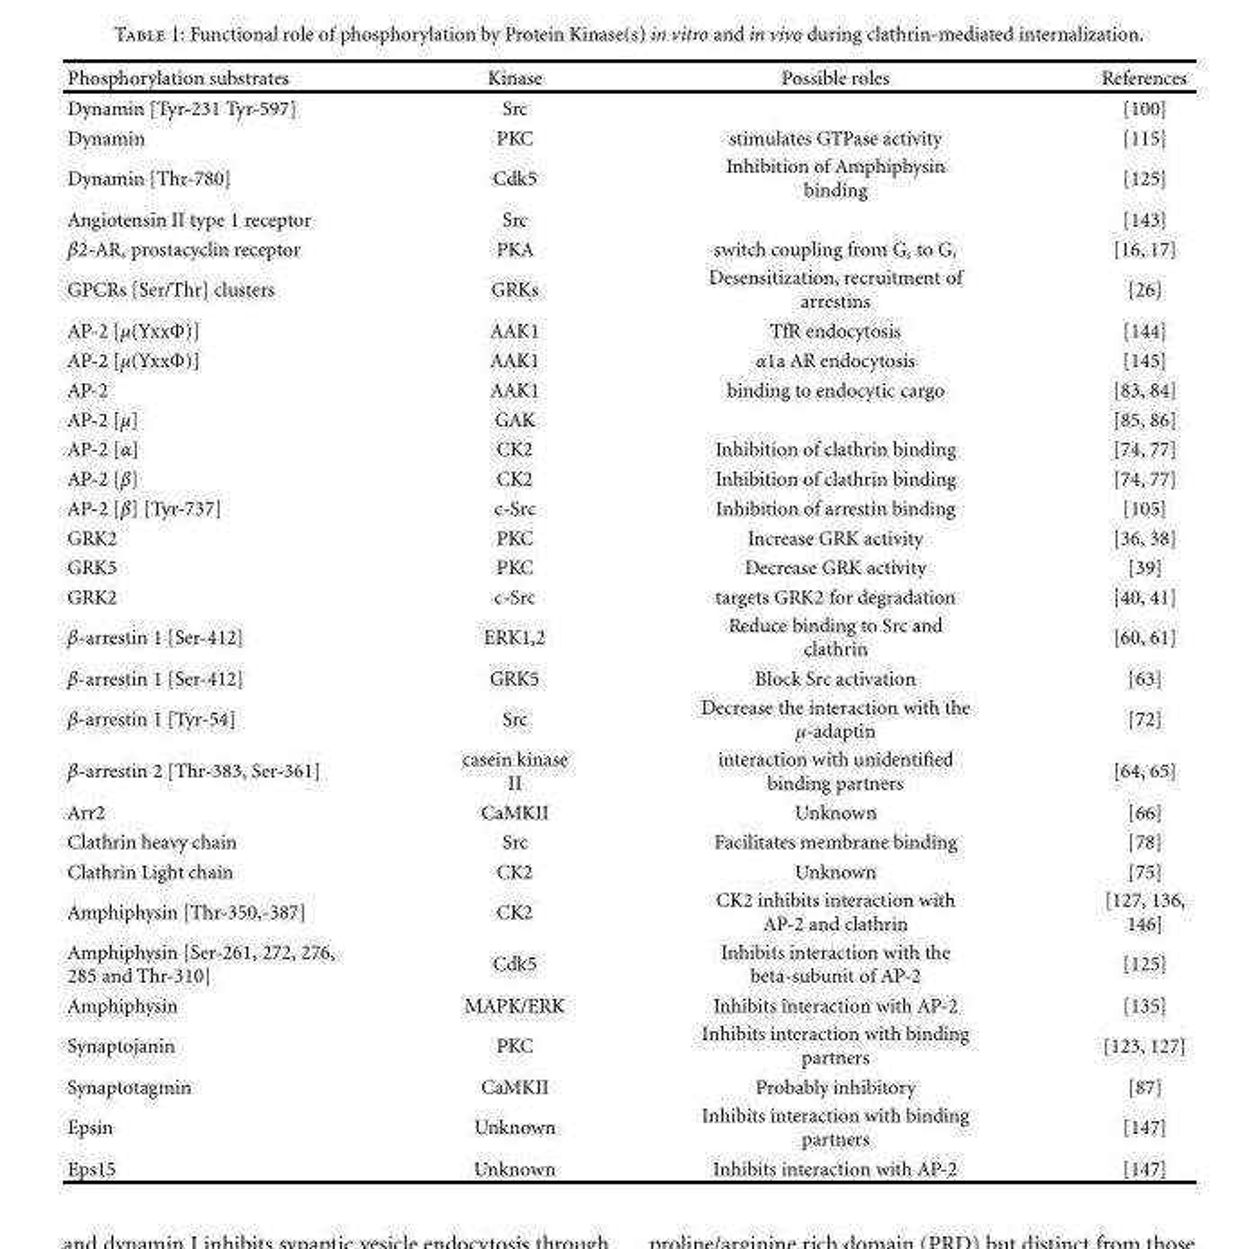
<table><thead><tr><td>Phosphorylation substrates</td><td>Kinase</td><td>Possible roles</td><td>References</td></tr></thead><tbody><tr><td>Dynamin [Tyr-231 Tyr-597]</td><td>Src</td><td></td><td>[100]</td></tr><tr><td>Dynamin</td><td>PKC</td><td>stimulates GTPase activity</td><td>[115]</td></tr><tr><td>Dynamin [Thr-780]</td><td>Cdk5</td><td>Inhibition of Amphiphysin binding</td><td>[125]</td></tr><tr><td>Angiotensin II type 1 receptor</td><td>Src</td><td></td><td>[143]</td></tr><tr><td>β2-AR, prostacyclin receptor</td><td>PKA</td><td>switch coupling from G<sub>s</sub> to G<sub>i</sub></td><td>[16, 17]</td></tr><tr><td>GPCRs [Ser/Thr] clusters</td><td>GRKs</td><td>Desensitization, recruitment of arrestins</td><td>[26]</td></tr><tr><td>AP-2 [μ(YxxΦ)]</td><td>AAK1</td><td>TfR endocytosis</td><td>[144]</td></tr><tr><td>AP-2 [μ(YxxΦ)]</td><td>AAK1</td><td>α1a AR endocytosis</td><td>[145]</td></tr><tr><td>AP-2</td><td>AAK1</td><td>binding to endocytic cargo</td><td>[83, 84]</td></tr><tr><td>AP-2 [μ]</td><td>GAK</td><td></td><td>[85, 86]</td></tr><tr><td>AP-2 [α]</td><td>CK2</td><td>Inhibition of clathrin binding</td><td>[74, 77]</td></tr><tr><td>AP-2 [β]</td><td>CK2</td><td>Inhibition of clathrin binding</td><td>[74, 77]</td></tr><tr><td>AP-2 [β] [Tyr-737]</td><td>c-Src</td><td>Inhibition of arrestin binding</td><td>[105]</td></tr><tr><td>GRK2</td><td>PKC</td><td>Increase GRK activity</td><td>[36, 38]</td></tr><tr><td>GRK5</td><td>PKC</td><td>Decrease GRK activity</td><td>[39]</td></tr><tr><td>GRK2</td><td>c-Src</td><td>targets GRK2 for degradation</td><td>[40, 41]</td></tr><tr><td>β-arrestin 1 [Ser-412]</td><td>ERK1,2</td><td>Reduce binding to Src and clathrin</td><td>[60, 61]</td></tr><tr><td>β-arrestin 1 [Ser-412]</td><td>GRK5</td><td>Block Src activation</td><td>[63]</td></tr><tr><td>β-arrestin 1 [Tyr-54]</td><td>Src</td><td>Decrease the interaction with the μ-adaptin</td><td>[72]</td></tr><tr><td>β-arrestin 2 [Thr-383, Ser-361]</td><td>casein kinase II</td><td>interaction with unidentified binding partners</td><td>[64, 65]</td></tr><tr><td>Arr2</td><td>CaMKII</td><td>Unknown</td><td>[66]</td></tr><tr><td>Clathrin heavy chain</td><td>Src</td><td>Facilitates membrane binding</td><td>[78]</td></tr><tr><td>Clathrin Light chain</td><td>CK2</td><td>Unknown</td><td>[75]</td></tr><tr><td>Amphiphysin [Thr-350,-387]</td><td>CK2</td><td>CK2 inhibits interaction with AP-2 and clathrin</td><td>[127, 136, 146]</td></tr><tr><td>Amphiphysin [Ser-261, 272, 276, 285 and Thr-310]</td><td>Cdk5</td><td>Inhibits interaction with the beta-subunit of AP-2</td><td>[125]</td></tr><tr><td>Amphiphysin</td><td>MAPK/ERK</td><td>Inhibits interaction with AP-2</td><td>[135]</td></tr><tr><td>Synaptojanin</td><td>PKC</td><td>Inhibits interaction with binding partners</td><td>[123, 127]</td></tr><tr><td>Synaptotagmin</td><td>CaMKII</td><td>Probably inhibitory</td><td>[87]</td></tr><tr><td>Epsin</td><td>Unknown</td><td>Inhibits interaction with binding partners</td><td>[147]</td></tr><tr><td>Eps15</td><td>Unknown</td><td>Inhibits interaction with AP-2</td><td>[147]</td></tr></tbody></table>